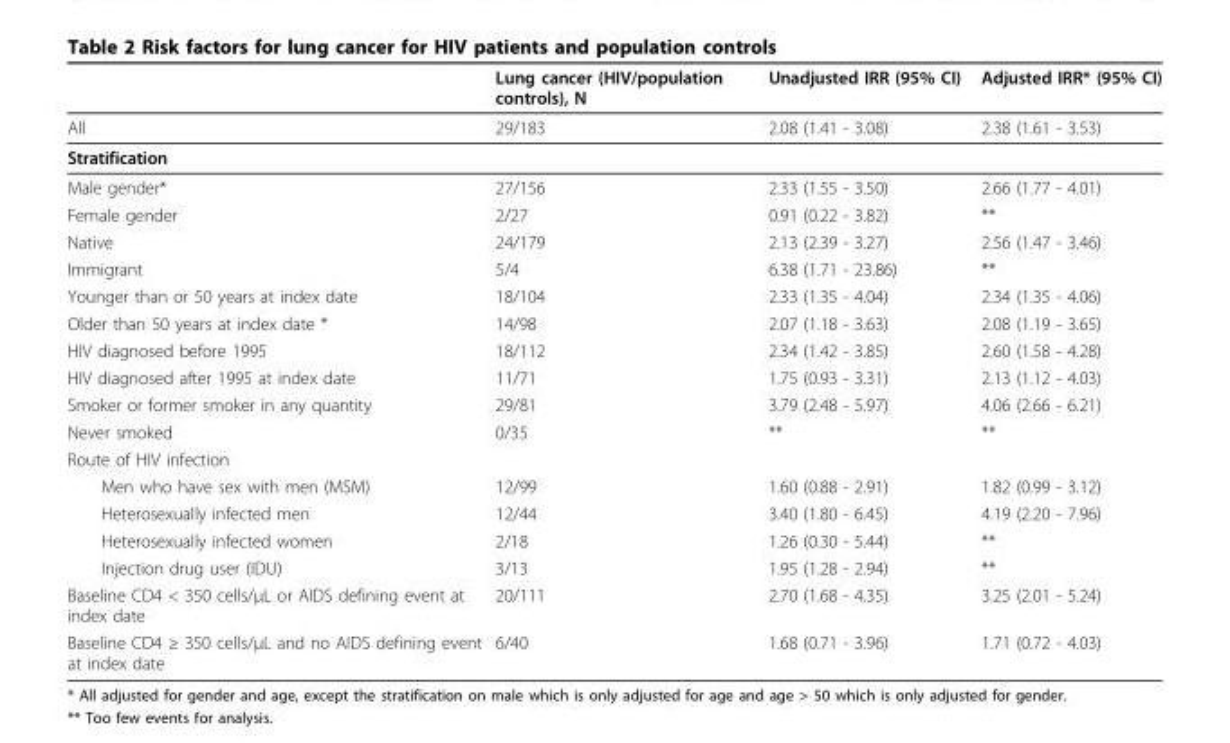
<table><thead><tr><td></td><td>Lung cancer (HIV/population controls), N</td><td>Unadjusted IRR (95% CI)</td><td>Adjusted IRR* (95% CI)</td></tr></thead><tbody><tr><td>All</td><td>29/183</td><td>2.08 (1.41 - 3.08)</td><td>2.38 (1.61 - 3.53)</td></tr><tr><td colspan="4">Stratification</td></tr><tr><td>Male gender*</td><td>27/156</td><td>2.33 (1.55 - 3.50)</td><td>2.66 (1.77 - 4.01)</td></tr><tr><td>Female gender</td><td>2/27</td><td>0.91 (0.22 - 3.82)</td><td>**</td></tr><tr><td>Native</td><td>24/179</td><td>2.13 (2.39 - 3.27)</td><td>2.56 (1.47 - 3.46)</td></tr><tr><td>Immigrant</td><td>5/4</td><td>6.38 (1.71 - 23.86)</td><td>**</td></tr><tr><td>Younger than or 50 years at index date</td><td>18/104</td><td>2.33 (1.35 - 4.04)</td><td>2.34 (1.35 - 4.06)</td></tr><tr><td>Older than 50 years at index date *</td><td>14/98</td><td>2.07 (1.18 - 3.63)</td><td>2.08 (1.19 - 3.65)</td></tr><tr><td>HIV diagnosed before 1995</td><td>18/112</td><td>2.34 (1.42 - 3.85)</td><td>2.60 (1.58 - 4.28)</td></tr><tr><td>HIV diagnosed after 1995 at index date</td><td>11/71</td><td>1.75 (0.93 - 3.31)</td><td>2.13 (1.12 - 4.03)</td></tr><tr><td>Smoker or former smoker in any quantity</td><td>29/81</td><td>3.79 (2.48 - 5.97)</td><td>4.06 (2.66 - 6.21)</td></tr><tr><td>Never smoked</td><td>0/35</td><td>**</td><td>**</td></tr><tr><td colspan="4">Route of HIV infection</td></tr><tr><td>Men who have sex with men (MSM)</td><td>12/99</td><td>1.60 (0.88 - 2.91)</td><td>1.82 (0.99 - 3.12)</td></tr><tr><td>Heterosexually infected men</td><td>12/44</td><td>3.40 (1.80 - 6.45)</td><td>4.19 (2.20 - 7.96)</td></tr><tr><td>Heterosexually infected women</td><td>2/18</td><td>1.26 (0.30 - 5.44)</td><td>**</td></tr><tr><td>Injection drug user (IDU)</td><td>3/13</td><td>1.95 (1.28 - 2.94)</td><td>**</td></tr><tr><td>Baseline CD4 &lt; 350 cells/μL or AIDS defining event at index date</td><td>20/111</td><td>2.70 (1.68 - 4.35)</td><td>3.25 (2.01 - 5.24)</td></tr><tr><td>Baseline CD4 ≥ 350 cells/μL and no AIDS defining event at index date</td><td>6/40</td><td>1.68 (0.71 - 3.96)</td><td>1.71 (0.72 - 4.03)</td></tr></tbody></table>